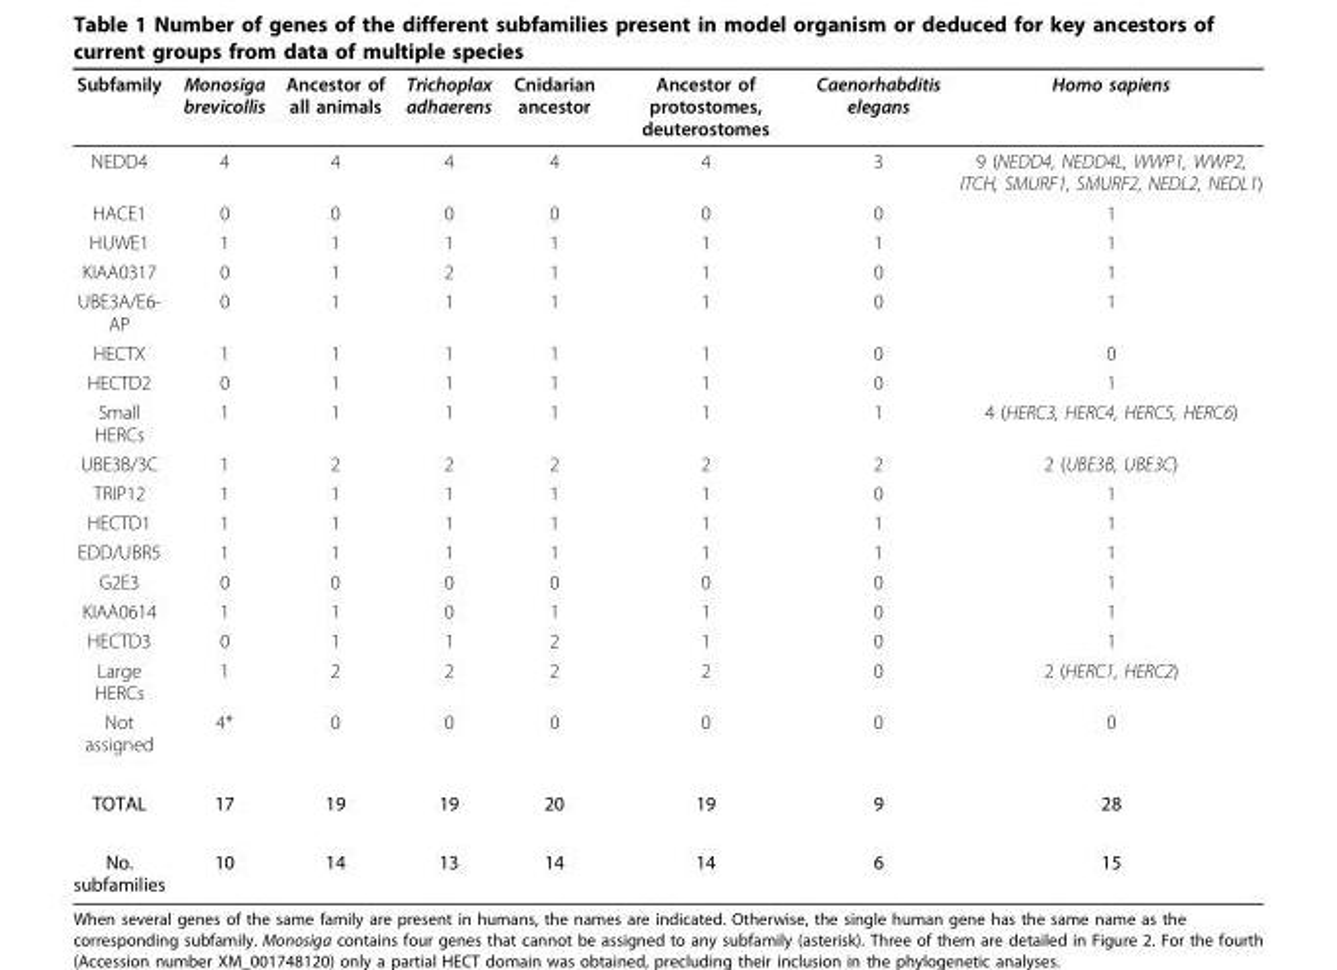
<table><thead><tr><td>Subfamily</td><td>Monosiga brevicollis</td><td>Ancestor of all animals</td><td>Trichoplax adhaerens</td><td>Cnidarian ancestor</td><td>Ancestor of protostomes, deuterostomes</td><td>Caenorhabditis elegans</td><td>Homo sapiens</td></tr></thead><tbody><tr><td>NEDD4</td><td>4</td><td>4</td><td>4</td><td>4</td><td>4</td><td>3</td><td>9 (NEDD4, NEDD4L, WWP1, WWP2, ITCH, SMURF1, SMURF2, NEDL2, NEDL1)</td></tr><tr><td>HACE1</td><td>0</td><td>0</td><td>0</td><td>0</td><td>0</td><td>0</td><td>1</td></tr><tr><td>HUWE1</td><td>1</td><td>1</td><td>1</td><td>1</td><td>1</td><td>1</td><td>1</td></tr><tr><td>KIAA0317</td><td>0</td><td>1</td><td>2</td><td>1</td><td>1</td><td>0</td><td>1</td></tr><tr><td>UBE3A/E6- AP</td><td>0</td><td>1</td><td>1</td><td>1</td><td>1</td><td>0</td><td>1</td></tr><tr><td>HECTX</td><td>1</td><td>1</td><td>1</td><td>1</td><td>1</td><td>0</td><td>0</td></tr><tr><td>HECTD2</td><td>0</td><td>1</td><td>1</td><td>1</td><td>1</td><td>0</td><td>1</td></tr><tr><td>Small HERCs</td><td>1</td><td>1</td><td>1</td><td>1</td><td>1</td><td>1</td><td>4 (HERC3, HERC4, HERC5, HERC6)</td></tr><tr><td>UBE3B/3C</td><td>1</td><td>2</td><td>2</td><td>2</td><td>2</td><td>2</td><td>2 (UBE3B, UBE3C)</td></tr><tr><td>TRIP12</td><td>1</td><td>1</td><td>1</td><td>1</td><td>1</td><td>0</td><td>1</td></tr><tr><td>HECTD1</td><td>1</td><td>1</td><td>1</td><td>1</td><td>1</td><td>1</td><td>1</td></tr><tr><td>EDD/UBR5</td><td>1</td><td>1</td><td>1</td><td>1</td><td>1</td><td>1</td><td>1</td></tr><tr><td>G2E3</td><td>0</td><td>0</td><td>0</td><td>0</td><td>0</td><td>0</td><td>1</td></tr><tr><td>KIAA0614</td><td>1</td><td>1</td><td>0</td><td>1</td><td>1</td><td>0</td><td>1</td></tr><tr><td>HECTD3</td><td>0</td><td>1</td><td>1</td><td>2</td><td>1</td><td>0</td><td>1</td></tr><tr><td>Large HERCs</td><td>1</td><td>2</td><td>2</td><td>2</td><td>2</td><td>0</td><td>2 (HERC1, HERC2)</td></tr><tr><td>Not assigned</td><td>4*</td><td>0</td><td>0</td><td>0</td><td>0</td><td>0</td><td>0</td></tr><tr><td>TOTAL</td><td>17</td><td>19</td><td>19</td><td>20</td><td>19</td><td>9</td><td>28</td></tr><tr><td>No. subfamilies</td><td>10</td><td>14</td><td>13</td><td>14</td><td>14</td><td>6</td><td>15</td></tr></tbody></table>